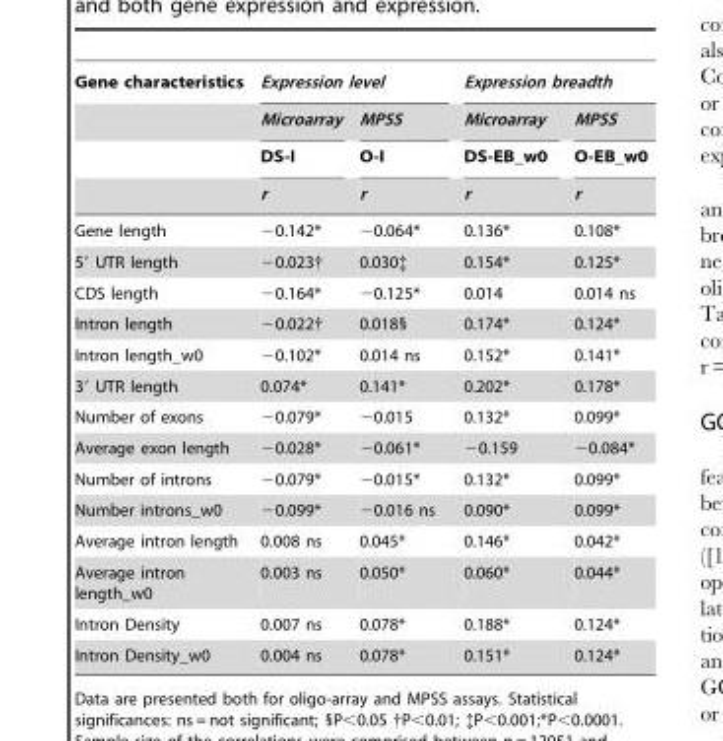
<table><thead><tr><td rowspan="4">Gene characteristics</td><td colspan="2">Expression level</td><td colspan="2">Expression breadth</td></tr><tr><td rowspan="3">Microarray DS-I r</td><td rowspan="3">MPSS O-I r</td><td rowspan="3">Microarray DS-EB_w0 r</td><td rowspan="3">MPSS O-EB_w0 r</td></tr><tr></tr><tr></tr></thead><tbody><tr><td>Gene length</td><td>−0.142*</td><td>−0.064*</td><td>0.136*</td><td>0.108*</td></tr><tr><td>5′ UTR length</td><td>−0.023†</td><td>0.030‡</td><td>0.154*</td><td>0.125*</td></tr><tr><td>CDS length</td><td>−0.164*</td><td>−0.125*</td><td>0.014</td><td>0.014 ns</td></tr><tr><td>Intron length</td><td>−0.022†</td><td>0.018§</td><td>0.174*</td><td>0.124*</td></tr><tr><td>Intron length_w0</td><td>−0.102*</td><td>0.014 ns</td><td>0.152*</td><td>0.141*</td></tr><tr><td>3′ UTR length</td><td>0.074*</td><td>0.141*</td><td>0.202*</td><td>0.178*</td></tr><tr><td>Number of exons</td><td>−0.079*</td><td>−0.015</td><td>0.132*</td><td>0.099*</td></tr><tr><td>Average exon length</td><td>−0.028*</td><td>−0.061*</td><td>−0.159</td><td>−0.084*</td></tr><tr><td>Number of introns</td><td>−0.079*</td><td>−0.015*</td><td>0.132*</td><td>0.099*</td></tr><tr><td>Number introns_w0</td><td>−0.099*</td><td>−0.016 ns</td><td>0.090*</td><td>0.099*</td></tr><tr><td>Average intron length</td><td>0.008 ns</td><td>0.045*</td><td>0.146*</td><td>0.042*</td></tr><tr><td>Average intron length_w0</td><td>0.003 ns</td><td>0.050*</td><td>0.060*</td><td>0.044*</td></tr><tr><td>Intron Density</td><td>0.007 ns</td><td>0.078*</td><td>0.188*</td><td>0.124*</td></tr><tr><td>Intron Density_w0</td><td>0.004 ns</td><td>0.078*</td><td>0.151*</td><td>0.124*</td></tr></tbody></table>